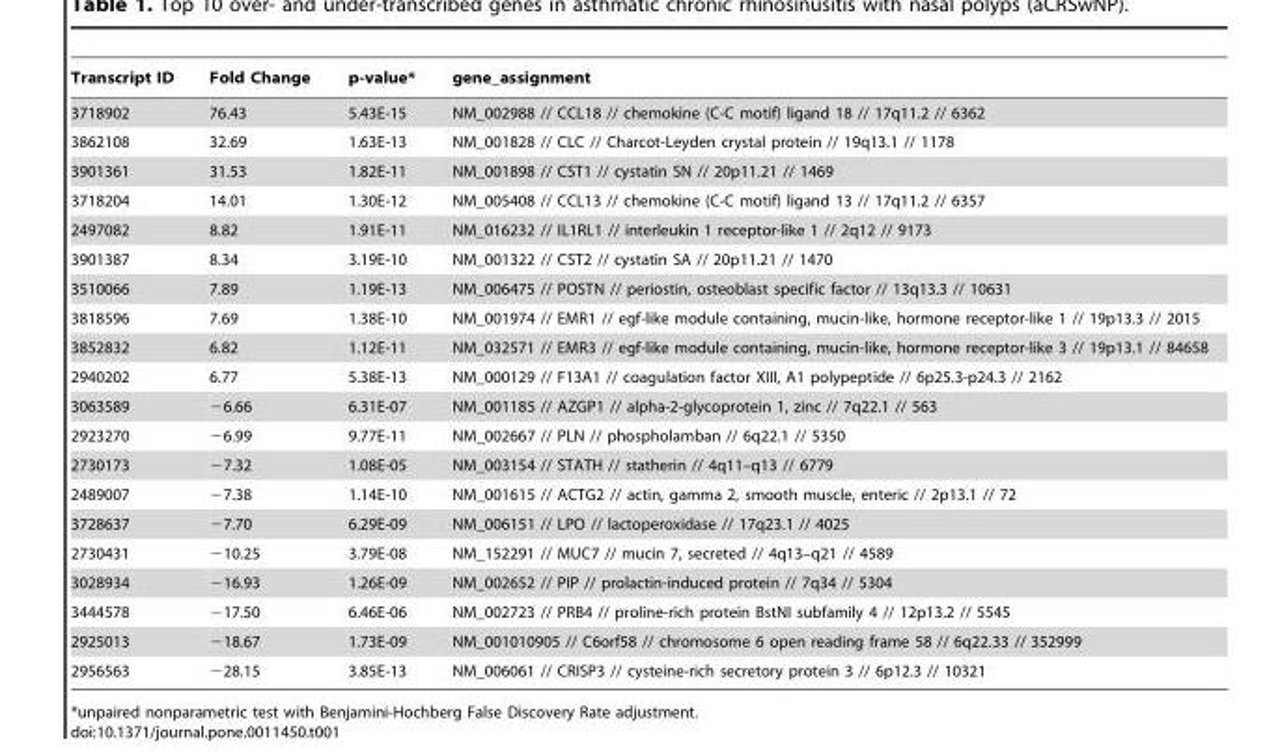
<table><thead><tr><td>Transcript ID</td><td>Fold Change</td><td>p-value*</td><td>gene_assignment</td></tr></thead><tbody><tr><td>3718902</td><td>76.43</td><td>5.43E-15</td><td>NM_002988 // CCL18 // chemokine (C-C motif) ligand 18 // 17q11.2 // 6362</td></tr><tr><td>3862108</td><td>32.69</td><td>1.63E-13</td><td>NM_001828 // CLC // Charcot-Leyden crystal protein // 19q13.1 // 1178</td></tr><tr><td>3901361</td><td>31.53</td><td>1.82E-11</td><td>NM_001898 // CST1 // cystatin SN // 20p11.21 // 1469</td></tr><tr><td>3718204</td><td>14.01</td><td>1.30E-12</td><td>NM_005408 // CCL13 // chemokine (C-C motif) ligand 13 // 17q11.2 // 6357</td></tr><tr><td>2497082</td><td>8.82</td><td>1.91E-11</td><td>NM_016232 // IL1RL1 // interleukin 1 receptor-like 1 // 2q12 // 9173</td></tr><tr><td>3901387</td><td>8.34</td><td>3.19E-10</td><td>NM_001322 // CST2 // cystatin SA // 20p11.21 // 1470</td></tr><tr><td>3510066</td><td>7.89</td><td>1.19E-13</td><td>NM_006475 // POSTN // periostin, osteoblast specific factor // 13q13.3 // 10631</td></tr><tr><td>3818596</td><td>7.69</td><td>1.38E-10</td><td>NM_001974 // EMR1 // egf-like module containing, mucin-like, hormone receptor-like 1 // 19p13.3 // 2015</td></tr><tr><td>3852832</td><td>6.82</td><td>1.12E-11</td><td>NM_032571 // EMR3 // egf-like module containing, mucin-like, hormone receptor-like 3 // 19p13.1 // 84658</td></tr><tr><td>2940202</td><td>6.77</td><td>5.38E-13</td><td>NM_000129 // F13A1 // coagulation factor XIII, A1 polypeptide // 6p25.3-p24.3 // 2162</td></tr><tr><td>3063589</td><td>−6.66</td><td>6.31E-07</td><td>NM_001185 // AZGP1 // alpha-2-glycoprotein 1, zinc // 7q22.1 // 563</td></tr><tr><td>2923270</td><td>−6.99</td><td>9.77E-11</td><td>NM_002667 // PLN // phospholamban // 6q22.1 // 5350</td></tr><tr><td>2730173</td><td>−7.32</td><td>1.08E-05</td><td>NM_003154 // STATH // statherin // 4q11–q13 // 6779</td></tr><tr><td>2489007</td><td>−7.38</td><td>1.14E-10</td><td>NM_001615 // ACTG2 // actin, gamma 2, smooth muscle, enteric // 2p13.1 // 72</td></tr><tr><td>3728637</td><td>−7.70</td><td>6.29E-09</td><td>NM_006151 // LPO // lactoperoxidase // 17q23.1 // 4025</td></tr><tr><td>2730431</td><td>−10.25</td><td>3.79E-08</td><td>NM_152291 // MUC7 // mucin 7, secreted // 4q13–q21 // 4589</td></tr><tr><td>3028934</td><td>−16.93</td><td>1.26E-09</td><td>NM_002652 // PIP // prolactin-induced protein // 7q34 // 5304</td></tr><tr><td>3444578</td><td>−17.50</td><td>6.46E-06</td><td>NM_002723 // PRB4 // proline-rich protein BstNI subfamily 4 // 12p13.2 // 5545</td></tr><tr><td>2925013</td><td>−18.67</td><td>1.73E-09</td><td>NM_001010905 // C6orf58 // chromosome 6 open reading frame 58 // 6q22.33 // 352999</td></tr><tr><td>2956563</td><td>−28.15</td><td>3.85E-13</td><td>NM_006061 // CRISP3 // cysteine-rich secretory protein 3 // 6p12.3 // 10321</td></tr></tbody></table>